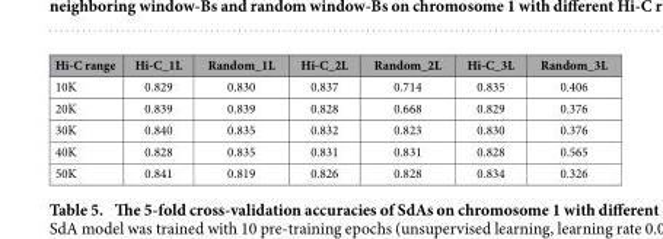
<table><thead><tr><td>Hi-C range</td><td>Hi-C_1L</td><td>Random_1L</td><td>Hi-C_2L</td><td>Random_2L</td><td>Hi-C_3L</td><td>Random_3L</td></tr></thead><tbody><tr><td>10K</td><td>0.829</td><td>0.830</td><td>0.837</td><td>0.714</td><td>0.835</td><td>0.406</td></tr><tr><td>20K</td><td>0.839</td><td>0.839</td><td>0.828</td><td>0.668</td><td>0.829</td><td>0.376</td></tr><tr><td>30K</td><td>0.840</td><td>0.835</td><td>0.832</td><td>0.823</td><td>0.830</td><td>0.376</td></tr><tr><td>40K</td><td>0.828</td><td>0.835</td><td>0.831</td><td>0.831</td><td>0.828</td><td>0.565</td></tr><tr><td>50K</td><td>0.841</td><td>0.819</td><td>0.826</td><td>0.828</td><td>0.834</td><td>0.326</td></tr></tbody></table>